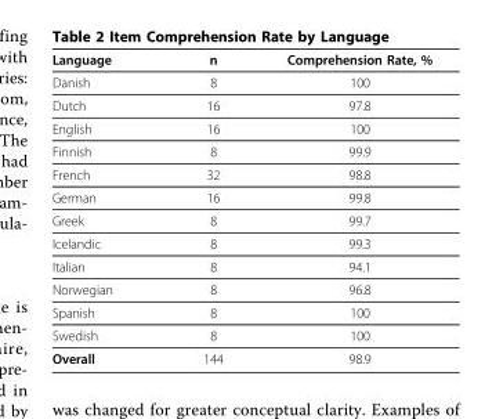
<table><thead><tr><td>Language</td><td>n</td><td>Comprehension Rate, %</td></tr></thead><tbody><tr><td>Danish</td><td>8</td><td>100</td></tr><tr><td>Dutch</td><td>16</td><td>97.8</td></tr><tr><td>English</td><td>16</td><td>100</td></tr><tr><td>Finnish</td><td>8</td><td>99.9</td></tr><tr><td>French</td><td>32</td><td>98.8</td></tr><tr><td>German</td><td>16</td><td>99.8</td></tr><tr><td>Greek</td><td>8</td><td>99.7</td></tr><tr><td>Icelandic</td><td>8</td><td>99.3</td></tr><tr><td>Italian</td><td>8</td><td>94.1</td></tr><tr><td>Norwegian</td><td>8</td><td>96.8</td></tr><tr><td>Spanish</td><td>8</td><td>100</td></tr><tr><td>Swedish</td><td>8</td><td>100</td></tr><tr><td>Overall</td><td>144</td><td>98.9</td></tr></tbody></table>